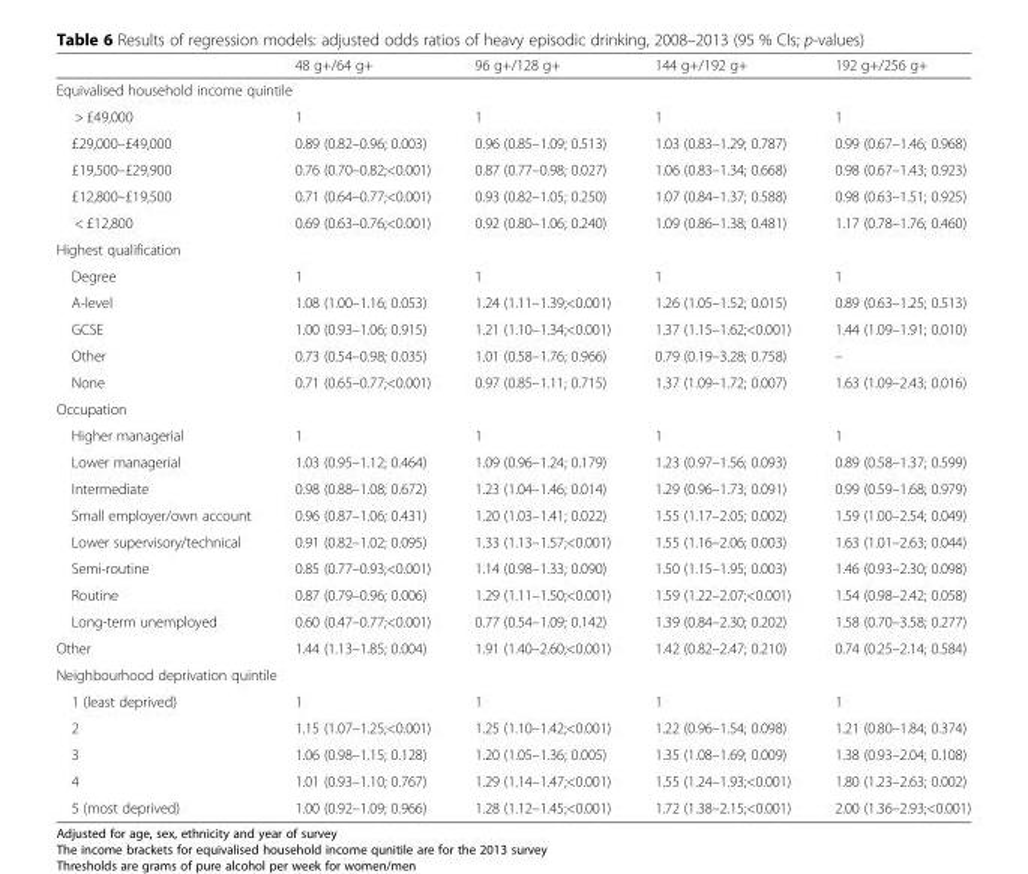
<table><thead><tr><td></td><td>48 g+/64 g+</td><td>96 g+/128 g+</td><td>144 g+/192 g+</td><td>192 g+/256 g+</td></tr></thead><tbody><tr><td colspan="5">Equivalised household income quintile</td></tr><tr><td>&gt; £49,000</td><td>1</td><td>1</td><td>1</td><td>1</td></tr><tr><td>£29,000–£49,000</td><td>0.89 (0.82–0.96; 0.003)</td><td>0.96 (0.85–1.09; 0.513)</td><td>1.03 (0.83–1.29; 0.787)</td><td>0.99 (0.67–1.46; 0.968)</td></tr><tr><td>£19,500–£29,900</td><td>0.76 (0.70–0.82;&lt;0.001)</td><td>0.87 (0.77–0.98; 0.027)</td><td>1.06 (0.83–1.34; 0.668)</td><td>0.98 (0.67–1.43; 0.923)</td></tr><tr><td>£12,800–£19,500</td><td>0.71 (0.64–0.77;&lt;0.001)</td><td>0.93 (0.82–1.05; 0.250)</td><td>1.07 (0.84–1.37; 0.588)</td><td>0.98 (0.63–1.51; 0.925)</td></tr><tr><td>&lt; £12,800</td><td>0.69 (0.63–0.76;&lt;0.001)</td><td>0.92 (0.80–1.06; 0.240)</td><td>1.09 (0.86–1.38; 0.481)</td><td>1.17 (0.78–1.76; 0.460)</td></tr><tr><td colspan="5">Highest qualification</td></tr><tr><td>Degree</td><td>1</td><td>1</td><td>1</td><td>1</td></tr><tr><td>A-level</td><td>1.08 (1.00–1.16; 0.053)</td><td>1.24 (1.11–1.39;&lt;0.001)</td><td>1.26 (1.05–1.52; 0.015)</td><td>0.89 (0.63–1.25; 0.513)</td></tr><tr><td>GCSE</td><td>1.00 (0.93–1.06; 0.915)</td><td>1.21 (1.10–1.34;&lt;0.001)</td><td>1.37 (1.15–1.62;&lt;0.001)</td><td>1.44 (1.09–1.91; 0.010)</td></tr><tr><td>Other</td><td>0.73 (0.54–0.98; 0.035)</td><td>1.01 (0.58–1.76; 0.966)</td><td>0.79 (0.19–3.28; 0.758)</td><td>–</td></tr><tr><td>None</td><td>0.71 (0.65–0.77;&lt;0.001)</td><td>0.97 (0.85–1.11; 0.715)</td><td>1.37 (1.09–1.72; 0.007)</td><td>1.63 (1.09–2.43; 0.016)</td></tr><tr><td colspan="5">Occupation</td></tr><tr><td>Higher managerial</td><td>1</td><td>1</td><td>1</td><td>1</td></tr><tr><td>Lower managerial</td><td>1.03 (0.95–1.12; 0.464)</td><td>1.09 (0.96–1.24; 0.179)</td><td>1.23 (0.97–1.56; 0.093)</td><td>0.89 (0.58–1.37; 0.599)</td></tr><tr><td>Intermediate</td><td>0.98 (0.88–1.08; 0.672)</td><td>1.23 (1.04–1.46; 0.014)</td><td>1.29 (0.96–1.73; 0.091)</td><td>0.99 (0.59–1.68; 0.979)</td></tr><tr><td>Small employer/own account</td><td>0.96 (0.87–1.06; 0.431)</td><td>1.20 (1.03–1.41; 0.022)</td><td>1.55 (1.17–2.05; 0.002)</td><td>1.59 (1.00–2.54; 0.049)</td></tr><tr><td>Lower supervisory/technical</td><td>0.91 (0.82–1.02; 0.095)</td><td>1.33 (1.13–1.57;&lt;0.001)</td><td>1.55 (1.16–2.06; 0.003)</td><td>1.63 (1.01–2.63; 0.044)</td></tr><tr><td>Semi-routine</td><td>0.85 (0.77–0.93;&lt;0.001)</td><td>1.14 (0.98–1.33; 0.090)</td><td>1.50 (1.15–1.95; 0.003)</td><td>1.46 (0.93–2.30; 0.098)</td></tr><tr><td>Routine</td><td>0.87 (0.79–0.96; 0.006)</td><td>1.29 (1.11–1.50;&lt;0.001)</td><td>1.59 (1.22–2.07;&lt;0.001)</td><td>1.54 (0.98–2.42; 0.058)</td></tr><tr><td>Long-term unemployed</td><td>0.60 (0.47–0.77;&lt;0.001)</td><td>0.77 (0.54–1.09; 0.142)</td><td>1.39 (0.84–2.30; 0.202)</td><td>1.58 (0.70–3.58; 0.277)</td></tr><tr><td>Other</td><td>1.44 (1.13–1.85; 0.004)</td><td>1.91 (1.40–2.60;&lt;0.001)</td><td>1.42 (0.82–2.47; 0.210)</td><td>0.74 (0.25–2.14; 0.584)</td></tr><tr><td colspan="5">Neighbourhood deprivation quintile</td></tr><tr><td>1 (least deprived)</td><td>1</td><td>1</td><td>1</td><td>1</td></tr><tr><td>2</td><td>1.15 (1.07–1.25;&lt;0.001)</td><td>1.25 (1.10–1.42;&lt;0.001)</td><td>1.22 (0.96–1.54; 0.098)</td><td>1.21 (0.80–1.84; 0.374)</td></tr><tr><td>3</td><td>1.06 (0.98–1.15; 0.128)</td><td>1.20 (1.05–1.36; 0.005)</td><td>1.35 (1.08–1.69; 0.009)</td><td>1.38 (0.93–2.04; 0.108)</td></tr><tr><td>4</td><td>1.01 (0.93–1.10; 0.767)</td><td>1.29 (1.14–1.47;&lt;0.001)</td><td>1.55 (1.24–1.93;&lt;0.001)</td><td>1.80 (1.23–2.63; 0.002)</td></tr><tr><td>5 (most deprived)</td><td>1.00 (0.92–1.09; 0.966)</td><td>1.28 (1.12–1.45;&lt;0.001)</td><td>1.72 (1.38–2.15;&lt;0.001)</td><td>2.00 (1.36–2.93;&lt;0.001)</td></tr></tbody></table>